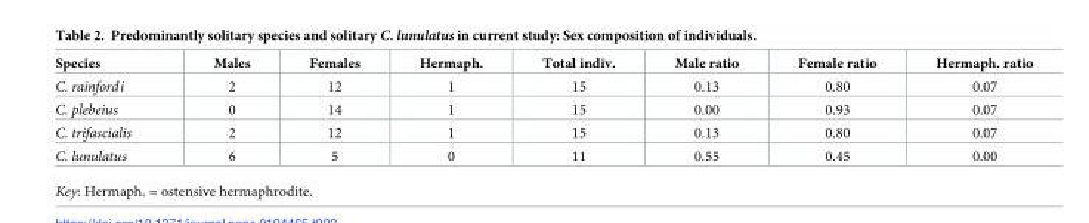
<table><thead><tr><td>Species</td><td>Males</td><td>Females</td><td>Hermaph.</td><td>Total indiv.</td><td>Male ratio</td><td>Female ratio</td><td>Hermaph. ratio</td></tr></thead><tbody><tr><td>C. rainfordi</td><td>2</td><td>12</td><td>1</td><td>15</td><td>0.13</td><td>0.80</td><td>0.07</td></tr><tr><td>C. plebeius</td><td>0</td><td>14</td><td>1</td><td>15</td><td>0.00</td><td>0.93</td><td>0.07</td></tr><tr><td>C. trifascialis</td><td>2</td><td>12</td><td>1</td><td>15</td><td>0.13</td><td>0.80</td><td>0.07</td></tr><tr><td>C. lunulatus</td><td>6</td><td>5</td><td>0</td><td>11</td><td>0.55</td><td>0.45</td><td>0.00</td></tr></tbody></table>